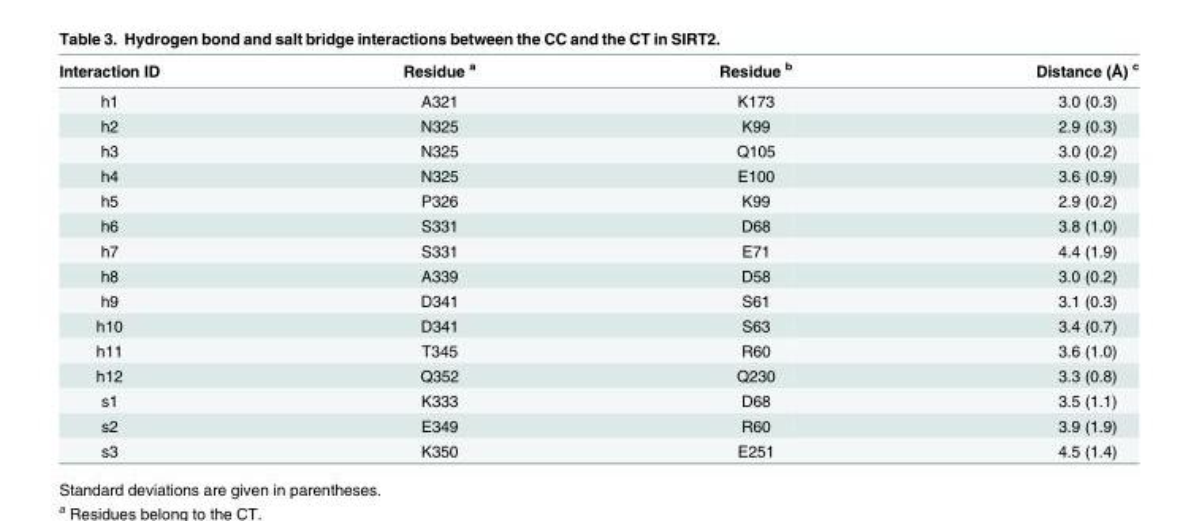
<table><thead><tr><td>Interaction ID</td><td>Residue <sup>a</sup></td><td>Residue <sup>b</sup></td><td>Distance (Å) <sup>c</sup></td></tr></thead><tbody><tr><td>h1</td><td>A321</td><td>K173</td><td>3.0 (0.3)</td></tr><tr><td>h2</td><td>N325</td><td>K99</td><td>2.9 (0.3)</td></tr><tr><td>h3</td><td>N325</td><td>Q105</td><td>3.0 (0.2)</td></tr><tr><td>h4</td><td>N325</td><td>E100</td><td>3.6 (0.9)</td></tr><tr><td>h5</td><td>P326</td><td>K99</td><td>2.9 (0.2)</td></tr><tr><td>h6</td><td>S331</td><td>D68</td><td>3.8 (1.0)</td></tr><tr><td>h7</td><td>S331</td><td>E71</td><td>4.4 (1.9)</td></tr><tr><td>h8</td><td>A339</td><td>D58</td><td>3.0 (0.2)</td></tr><tr><td>h9</td><td>D341</td><td>S61</td><td>3.1 (0.3)</td></tr><tr><td>h10</td><td>D341</td><td>S63</td><td>3.4 (0.7)</td></tr><tr><td>h11</td><td>T345</td><td>R60</td><td>3.6 (1.0)</td></tr><tr><td>h12</td><td>Q352</td><td>Q230</td><td>3.3 (0.8)</td></tr><tr><td>s1</td><td>K333</td><td>D68</td><td>3.5 (1.1)</td></tr><tr><td>s2</td><td>E349</td><td>R60</td><td>3.9 (1.9)</td></tr><tr><td>s3</td><td>K350</td><td>E251</td><td>4.5 (1.4)</td></tr></tbody></table>